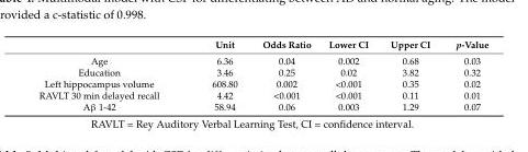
<table><thead><tr><td></td><td>Unit</td><td>Odds Ratio</td><td>Lower CI</td><td>Upper CI</td><td>p-Value</td></tr></thead><tbody><tr><td>Age</td><td>6.36</td><td>0.04</td><td>0.002</td><td>0.68</td><td>0.03</td></tr><tr><td>Education</td><td>3.46</td><td>0.25</td><td>0.02</td><td>3.82</td><td>0.32</td></tr><tr><td>Left hippocampus volume</td><td>608.80</td><td>0.002</td><td>&lt;0.001</td><td>0.35</td><td>0.02</td></tr><tr><td>RAVLT 30 min delayed recall</td><td>4.42</td><td>&lt;0.001</td><td>&lt;0.001</td><td>0.11</td><td>0.01</td></tr><tr><td>Aβ 1-42</td><td>58.94</td><td>0.06</td><td>0.003</td><td>1.29</td><td>0.07</td></tr></tbody></table>